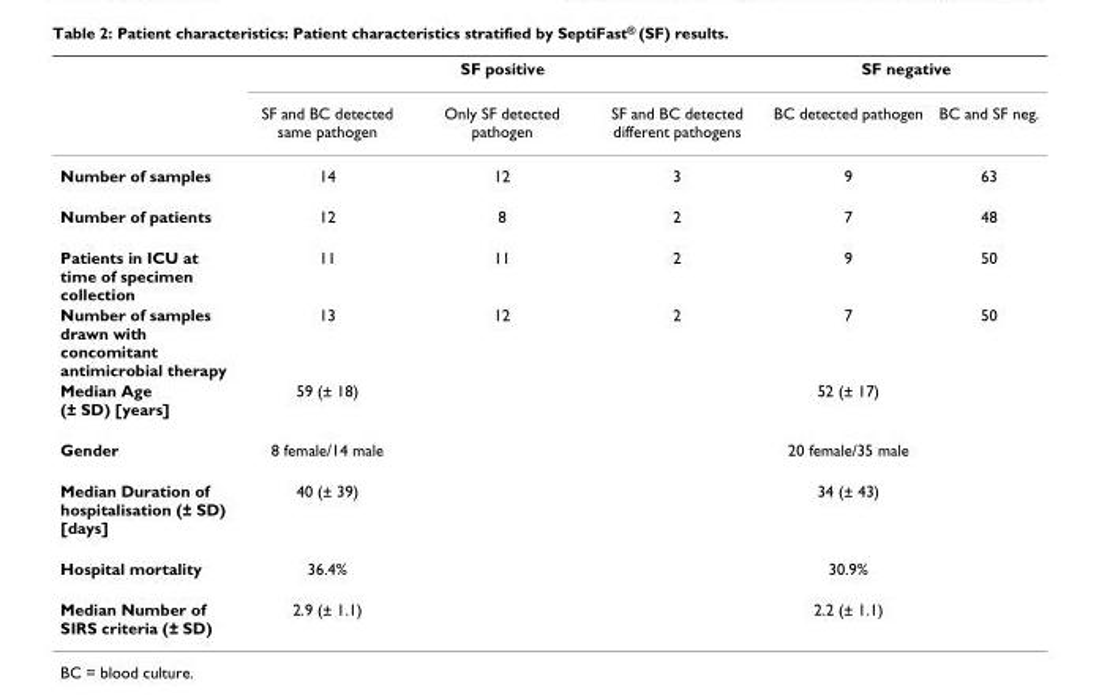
<table><thead><tr><td rowspan="2"></td><td colspan="3">SF positive</td><td colspan="2">SF negative</td></tr><tr><td>SF and BC detected same pathogen</td><td>Only SF detected pathogen</td><td>SF and BC detected different pathogens</td><td>BC detected pathogen</td><td>BC and SF neg.</td></tr></thead><tbody><tr><td>Number of samples</td><td>14</td><td>12</td><td>3</td><td>9</td><td>63</td></tr><tr><td>Number of patients</td><td>12</td><td>8</td><td>2</td><td>7</td><td>48</td></tr><tr><td>Patients in ICU at time of specimen collection</td><td>11</td><td>11</td><td>2</td><td>9</td><td>50</td></tr><tr><td>Number of samples drawn with concomitant antimicrobial therapy</td><td>13</td><td>12</td><td>2</td><td>7</td><td>50</td></tr><tr><td>Median Age (± SD) [years]</td><td>59 (± 18)</td><td></td><td></td><td>52 (± 17)</td><td></td></tr><tr><td>Gender</td><td>8 female/14 male</td><td></td><td></td><td>20 female/35 male</td><td></td></tr><tr><td>Median Duration of hospitalisation (± SD) [days]</td><td>40 (± 39)</td><td></td><td></td><td>34 (± 43)</td><td></td></tr><tr><td>Hospital mortality</td><td>36.4%</td><td></td><td></td><td>30.9%</td><td></td></tr><tr><td>Median Number of SIRS criteria (± SD)</td><td>2.9 (± 1.1)</td><td></td><td></td><td>2.2 (± 1.1)</td><td></td></tr></tbody></table>